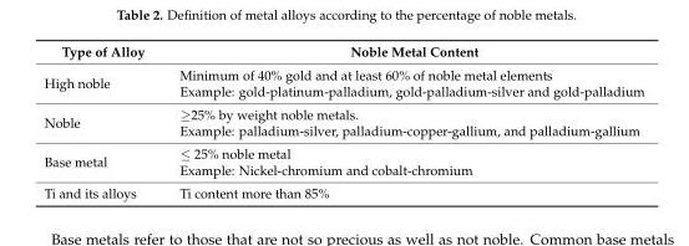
<table><thead><tr><td>Type of Alloy</td><td>Noble Metal Content</td></tr></thead><tbody><tr><td>High noble</td><td>Minimum of 40% gold and at least 60% of noble metal elements Example: gold-platinum-palladium, gold-palladium-silver and gold-palladium</td></tr><tr><td>Noble</td><td>≥25% by weight noble metals. Example: palladium-silver, palladium-copper-gallium, and palladium-gallium</td></tr><tr><td>Base metal</td><td>≤ 25% noble metal Example: Nickel-chromium and cobalt-chromium</td></tr><tr><td>Ti and its alloys</td><td>Ti content more than 85%</td></tr></tbody></table>